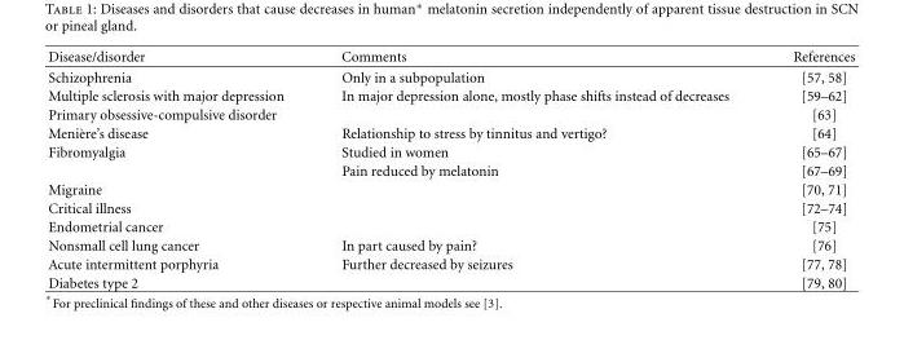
<table><thead><tr><td>Disease/disorder</td><td>Comments</td><td>References</td></tr></thead><tbody><tr><td>Schizophrenia</td><td>Only in a subpopulation</td><td>[57, 58]</td></tr><tr><td>Multiple sclerosis with major depression</td><td>In major depression alone, mostly phase shifts instead of decreases</td><td>[59–62]</td></tr><tr><td>Primary obsessive-compulsive disorder</td><td></td><td>[63]</td></tr><tr><td>Meni`ere’s disease</td><td>Relationship to stress by tinnitus and vertigo?</td><td>[64]</td></tr><tr><td rowspan="2">Fibromyalgia</td><td>Studied in women</td><td>[65–67]</td></tr><tr><td>Pain reduced by melatonin</td><td>[67–69]</td></tr><tr><td>Migraine</td><td></td><td>[70, 71]</td></tr><tr><td>Critical illness</td><td></td><td>[72–74]</td></tr><tr><td>Endometrial cancer</td><td></td><td>[75]</td></tr><tr><td>Nonsmall cell lung cancer</td><td>In part caused by pain?</td><td>[76]</td></tr><tr><td>Acute intermittent porphyria</td><td>Further decreased by seizures</td><td>[77, 78]</td></tr><tr><td>Diabetes type 2</td><td></td><td>[79, 80]</td></tr></tbody></table>